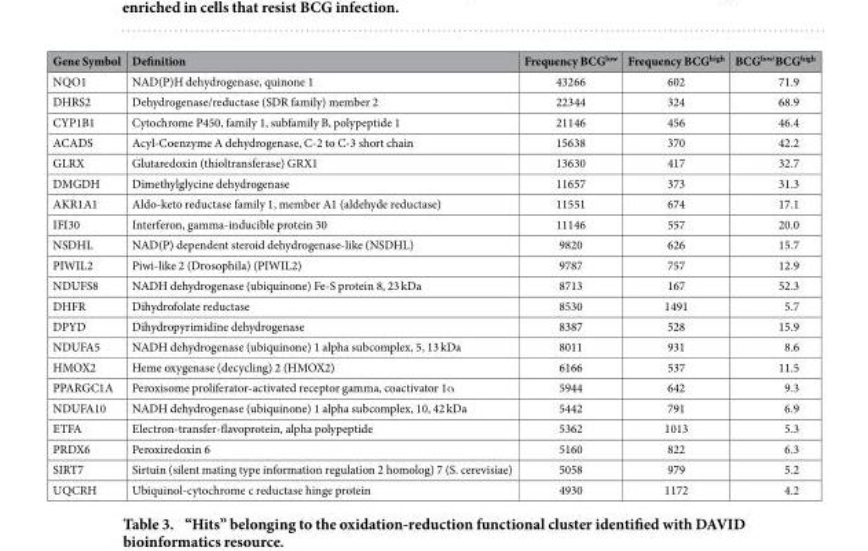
<table><thead><tr><td>Gene Symbol</td><td>Definition</td><td>Frequency BCG<sup>low</sup></td><td>Frequency BCG<sup>high</sup></td><td>BCG<sup>low/</sup>BCG<sup>high</sup></td></tr></thead><tbody><tr><td>NQO1</td><td>NAD(P)H dehydrogenase, quinone 1</td><td>43266</td><td>602</td><td>71.9</td></tr><tr><td>DHRS2</td><td>Dehydrogenase/reductase (SDR family) member 2</td><td>22344</td><td>324</td><td>68.9</td></tr><tr><td>CYP1B1</td><td>Cytochrome P450, family 1, subfamily B, polypeptide 1</td><td>21146</td><td>456</td><td>46.4</td></tr><tr><td>ACADS</td><td>Acyl-Coenzyme A dehydrogenase, C-2 to C-3 short chain</td><td>15638</td><td>370</td><td>42.2</td></tr><tr><td>GLRX</td><td>Glutaredoxin (thioltransferase) GRX1</td><td>13630</td><td>417</td><td>32.7</td></tr><tr><td>DMGDH</td><td>Dimethylglycine dehydrogenase</td><td>11657</td><td>373</td><td>31.3</td></tr><tr><td>AKR1A1</td><td>Aldo-keto reductase family 1, member A1 (aldehyde reductase)</td><td>11551</td><td>674</td><td>17.1</td></tr><tr><td>IFI30</td><td>Interferon, gamma-inducible protein 30</td><td>11146</td><td>557</td><td>20.0</td></tr><tr><td>NSDHL</td><td>NAD(P) dependent steroid dehydrogenase-like (NSDHL)</td><td>9820</td><td>626</td><td>15.7</td></tr><tr><td>PIWIL2</td><td>Piwi-like 2 (Drosophila) (PIWIL2)</td><td>9787</td><td>757</td><td>12.9</td></tr><tr><td>NDUFS8</td><td>NADH dehydrogenase (ubiquinone) Fe-S protein 8, 23 kDa</td><td>8713</td><td>167</td><td>52.3</td></tr><tr><td>DHFR</td><td>Dihydrofolate reductase</td><td>8530</td><td>1491</td><td>5.7</td></tr><tr><td>DPYD</td><td>Dihydropyrimidine dehydrogenase</td><td>8387</td><td>528</td><td>15.9</td></tr><tr><td>NDUFA5</td><td>NADH dehydrogenase (ubiquinone) 1 alpha subcomplex, 5, 13 kDa</td><td>8011</td><td>931</td><td>8.6</td></tr><tr><td>HMOX2</td><td>Heme oxygenase (decycling) 2 (HMOX2)</td><td>6166</td><td>537</td><td>11.5</td></tr><tr><td>PPARGC1A</td><td>Peroxisome proliferator-activated receptor gamma, coactivator 1α</td><td>5944</td><td>642</td><td>9.3</td></tr><tr><td>NDUFA10</td><td>NADH dehydrogenase (ubiquinone) 1 alpha subcomplex, 10, 42 kDa</td><td>5442</td><td>791</td><td>6.9</td></tr><tr><td>ETFA</td><td>Electron-transfer-flavoprotein, alpha polypeptide</td><td>5362</td><td>1013</td><td>5.3</td></tr><tr><td>PRDX6</td><td>Peroxiredoxin 6</td><td>5160</td><td>822</td><td>6.3</td></tr><tr><td>SIRT7</td><td>Sirtuin (silent mating type information regulation 2 homolog) 7 (S. cerevisiae)</td><td>5058</td><td>979</td><td>5.2</td></tr><tr><td>UQCRH</td><td>Ubiquinol-cytochrome c reductase hinge protein</td><td>4930</td><td>1172</td><td>4.2</td></tr></tbody></table>